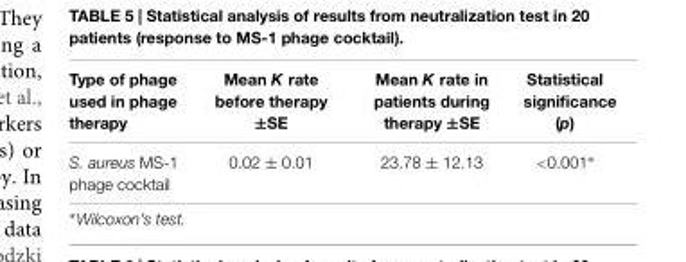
<table><thead><tr><td>Type of phage used in phage therapy</td><td>Mean K rate before therapy ±SE</td><td>Mean K rate in patients during therapy ±SE</td><td>Statistical significance (p)</td></tr></thead><tbody><tr><td>S. aureus MS-1 phage cocktail</td><td>0.02 ± 0.01</td><td>23.78 ± 12.13</td><td>&lt;0.001∗</td></tr></tbody></table>